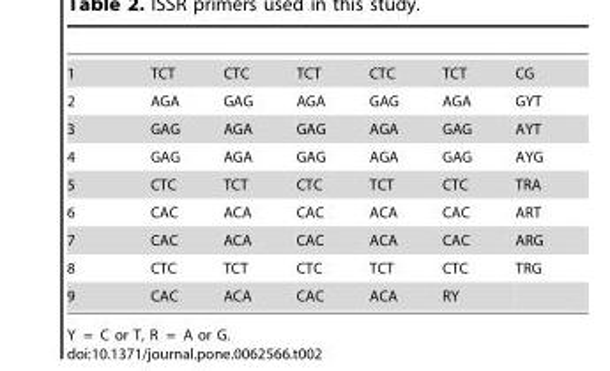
<table><tbody><tr><td>1</td><td>TCT</td><td>CTC</td><td>TCT</td><td>CTC</td><td>TCT</td><td>CG</td></tr><tr><td>2</td><td>AGA</td><td>GAG</td><td>AGA</td><td>GAG</td><td>AGA</td><td>GYT</td></tr><tr><td>3</td><td>GAG</td><td>AGA</td><td>GAG</td><td>AGA</td><td>GAG</td><td>AYT</td></tr><tr><td>4</td><td>GAG</td><td>AGA</td><td>GAG</td><td>AGA</td><td>GAG</td><td>AYG</td></tr><tr><td>5</td><td>CTC</td><td>TCT</td><td>CTC</td><td>TCT</td><td>CTC</td><td>TRA</td></tr><tr><td>6</td><td>CAC</td><td>ACA</td><td>CAC</td><td>ACA</td><td>CAC</td><td>ART</td></tr><tr><td>7</td><td>CAC</td><td>ACA</td><td>CAC</td><td>ACA</td><td>CAC</td><td>ARG</td></tr><tr><td>8</td><td>CTC</td><td>TCT</td><td>CTC</td><td>TCT</td><td>CTC</td><td>TRG</td></tr><tr><td>9</td><td>CAC</td><td>ACA</td><td>CAC</td><td>ACA</td><td>RY</td><td></td></tr></tbody></table>